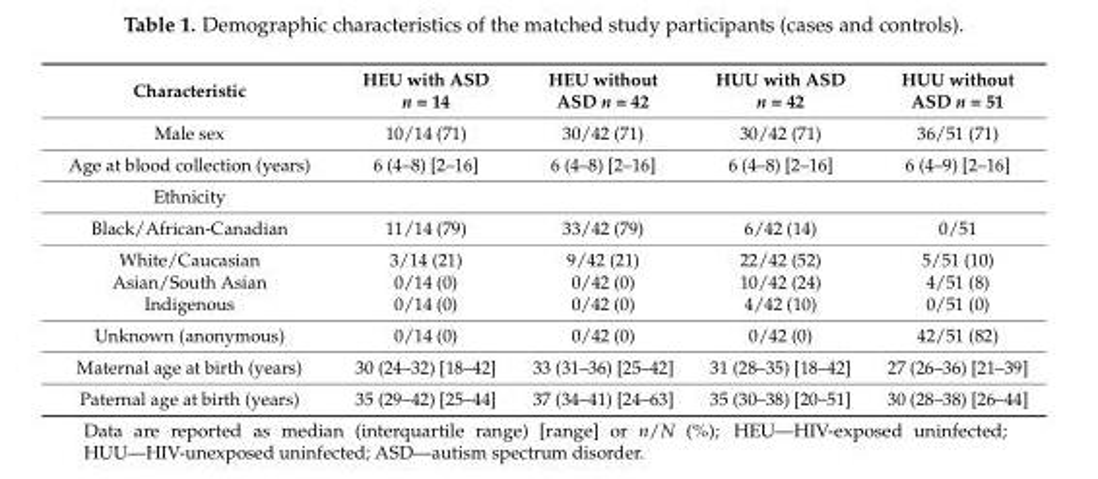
<table><thead><tr><td>Characteristic</td><td>HEU with ASD n = 14</td><td>HEU without ASD n = 42</td><td>HUU with ASD n = 42</td><td>HUU without ASD n = 51</td></tr></thead><tbody><tr><td>Male sex</td><td>10/14 (71)</td><td>30/42 (71)</td><td>30/42 (71)</td><td>36/51 (71)</td></tr><tr><td>Age at blood collection (years)</td><td>6 (4–8) [2–16]</td><td>6 (4–8) [2–16]</td><td>6 (4–8) [2–16]</td><td>6 (4–9) [2–16]</td></tr><tr><td colspan="5">Ethnicity</td></tr><tr><td>Black/African-Canadian</td><td>11/14 (79)</td><td>33/42 (79)</td><td>6/42 (14)</td><td>0/51</td></tr><tr><td>White/Caucasian</td><td>3/14 (21)</td><td>9/42 (21)</td><td>22/42 (52)</td><td>5/51 (10)</td></tr><tr><td>Asian/South Asian</td><td>0/14 (0)</td><td>0/42 (0)</td><td>10/42 (24)</td><td>4/51 (8)</td></tr><tr><td>Indigenous</td><td>0/14 (0)</td><td>0/42 (0)</td><td>4/42 (10)</td><td>0/51 (0)</td></tr><tr><td>Unknown (anonymous)</td><td>0/14 (0)</td><td>0/42 (0)</td><td>0/42 (0)</td><td>42/51 (82)</td></tr><tr><td>Maternal age at birth (years)</td><td>30 (24–32) [18–42]</td><td>33 (31–36) [25–42]</td><td>31 (28–35) [18–42]</td><td>27 (26–36) [21–39]</td></tr><tr><td>Paternal age at birth (years)</td><td>35 (29–42) [25–44]</td><td>37 (34–41) [24–63]</td><td>35 (30–38) [20–51]</td><td>30 (28–38) [26–44]</td></tr></tbody></table>